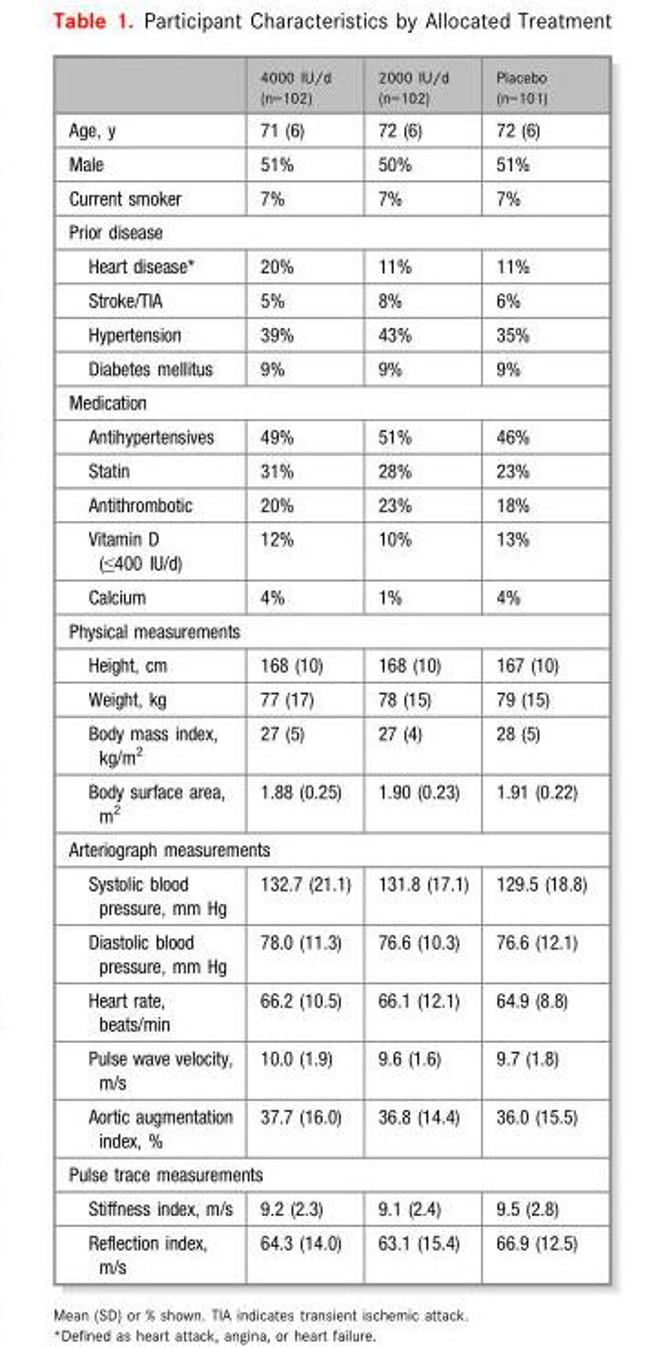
<table><thead><tr><td></td><td>4000 IU/d (n=102)</td><td>2000 IU/d (n=102)</td><td>Placebo (n=101)</td></tr></thead><tbody><tr><td>Age, y</td><td>71 (6)</td><td>72 (6)</td><td>72 (6)</td></tr><tr><td>Male</td><td>51%</td><td>50%</td><td>51%</td></tr><tr><td>Current smoker</td><td>7%</td><td>7%</td><td>7%</td></tr><tr><td colspan="4">Prior disease</td></tr><tr><td>Heart disease*</td><td>20%</td><td>11%</td><td>11%</td></tr><tr><td>Stroke/TIA</td><td>5%</td><td>8%</td><td>6%</td></tr><tr><td>Hypertension</td><td>39%</td><td>43%</td><td>35%</td></tr><tr><td>Diabetes mellitus</td><td>9%</td><td>9%</td><td>9%</td></tr><tr><td colspan="4">Medication</td></tr><tr><td>Antihypertensives</td><td>49%</td><td>51%</td><td>46%</td></tr><tr><td>Statin</td><td>31%</td><td>28%</td><td>23%</td></tr><tr><td>Antithrombotic</td><td>20%</td><td>23%</td><td>18%</td></tr><tr><td>Vitamin D (≤400 IU/d)</td><td>12%</td><td>10%</td><td>13%</td></tr><tr><td>Calcium</td><td>4%</td><td>1%</td><td>4%</td></tr><tr><td colspan="4">Physical measurements</td></tr><tr><td>Height, cm</td><td>168 (10)</td><td>168 (10)</td><td>167 (10)</td></tr><tr><td>Weight, kg</td><td>77 (17)</td><td>78 (15)</td><td>79 (15)</td></tr><tr><td>Body mass index, kg/m<sup>2</sup></td><td>27 (5)</td><td>27 (4)</td><td>28 (5)</td></tr><tr><td>Body surface area, m<sup>2</sup></td><td>1.88 (0.25)</td><td>1.90 (0.23)</td><td>1.91 (0.22)</td></tr><tr><td colspan="4">Arteriograph measurements</td></tr><tr><td>Systolic blood pressure, mm Hg</td><td>132.7 (21.1)</td><td>131.8 (17.1)</td><td>129.5 (18.8)</td></tr><tr><td>Diastolic blood pressure, mm Hg</td><td>78.0 (11.3)</td><td>76.6 (10.3)</td><td>76.6 (12.1)</td></tr><tr><td>Heart rate, beats/min</td><td>66.2 (10.5)</td><td>66.1 (12.1)</td><td>64.9 (8.8)</td></tr><tr><td>Pulse wave velocity, m/s</td><td>10.0 (1.9)</td><td>9.6 (1.6)</td><td>9.7 (1.8)</td></tr><tr><td>Aortic augmentation index, %</td><td>37.7 (16.0)</td><td>36.8 (14.4)</td><td>36.0 (15.5)</td></tr><tr><td colspan="4">Pulse trace measurements</td></tr><tr><td>Stiffness index, m/s</td><td>9.2 (2.3)</td><td>9.1 (2.4)</td><td>9.5 (2.8)</td></tr><tr><td>Reflection index, m/s</td><td>64.3 (14.0)</td><td>63.1 (15.4)</td><td>66.9 (12.5)</td></tr></tbody></table>